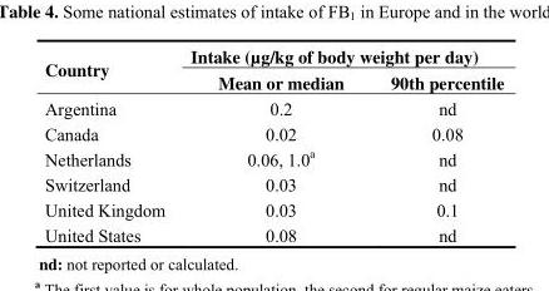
<table><thead><tr><td rowspan="2">Country</td><td colspan="2">Intake (µg/kg of body weight per day)</td></tr><tr><td>Mean or median</td><td>90th percentile</td></tr></thead><tbody><tr><td>Argentina</td><td>0.2</td><td>nd</td></tr><tr><td>Canada</td><td>0.02</td><td>0.08</td></tr><tr><td>Netherlands</td><td>0.06, 1.0<sup>a</sup></td><td>nd</td></tr><tr><td>Switzerland</td><td>0.03</td><td>nd</td></tr><tr><td>United Kingdom</td><td>0.03</td><td>0.1</td></tr><tr><td>United States</td><td>0.08</td><td>nd</td></tr></tbody></table>